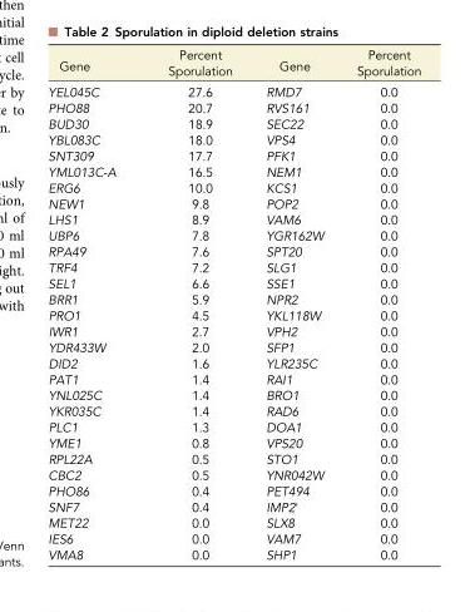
<table><thead><tr><td>Gene</td><td>Percent Sporulation</td><td>Gene</td><td>Percent Sporulation</td></tr></thead><tbody><tr><td>YEL045C</td><td>27.6</td><td>RMD7</td><td>0.0</td></tr><tr><td>PHO88</td><td>20.7</td><td>RVS161</td><td>0.0</td></tr><tr><td>BUD30</td><td>18.9</td><td>SEC22</td><td>0.0</td></tr><tr><td>YBL083C</td><td>18.0</td><td>VPS4</td><td>0.0</td></tr><tr><td>SNT309</td><td>17.7</td><td>PFK1</td><td>0.0</td></tr><tr><td>YML013C-A</td><td>16.5</td><td>NEM1</td><td>0.0</td></tr><tr><td>ERG6</td><td>10.0</td><td>KCS1</td><td>0.0</td></tr><tr><td>NEW1</td><td>9.8</td><td>POP2</td><td>0.0</td></tr><tr><td>LHS1</td><td>8.9</td><td>VAM6</td><td>0.0</td></tr><tr><td>UBP6</td><td>7.8</td><td>YGR162W</td><td>0.0</td></tr><tr><td>RPA49</td><td>7.6</td><td>SPT20</td><td>0.0</td></tr><tr><td>TRF4</td><td>7.2</td><td>SLG1</td><td>0.0</td></tr><tr><td>SEL1</td><td>6.6</td><td>SSE1</td><td>0.0</td></tr><tr><td>BRR1</td><td>5.9</td><td>NPR2</td><td>0.0</td></tr><tr><td>PRO1</td><td>4.5</td><td>YKL118W</td><td>0.0</td></tr><tr><td>IWR1</td><td>2.7</td><td>VPH2</td><td>0.0</td></tr><tr><td>YDR433W</td><td>2.0</td><td>SFP1</td><td>0.0</td></tr><tr><td>DID2</td><td>1.6</td><td>YLR235C</td><td>0.0</td></tr><tr><td>PAT1</td><td>1.4</td><td>RAI1</td><td>0.0</td></tr><tr><td>YNL025C</td><td>1.4</td><td>BRO1</td><td>0.0</td></tr><tr><td>YKR035C</td><td>1.4</td><td>RAD6</td><td>0.0</td></tr><tr><td>PLC1</td><td>1.3</td><td>DOA1</td><td>0.0</td></tr><tr><td>YME1</td><td>0.8</td><td>VPS20</td><td>0.0</td></tr><tr><td>RPL22A</td><td>0.5</td><td>STO1</td><td>0.0</td></tr><tr><td>CBC2</td><td>0.5</td><td>YNR042W</td><td>0.0</td></tr><tr><td>PHO86</td><td>0.4</td><td>PET494</td><td>0.0</td></tr><tr><td>SNF7</td><td>0.4</td><td>IMP2&#x27;</td><td>0.0</td></tr><tr><td>MET22</td><td>0.0</td><td>SLX8</td><td>0.0</td></tr><tr><td>IES6</td><td>0.0</td><td>VAM7</td><td>0.0</td></tr><tr><td>VMA8</td><td>0.0</td><td>SHP1</td><td>0.0</td></tr></tbody></table>